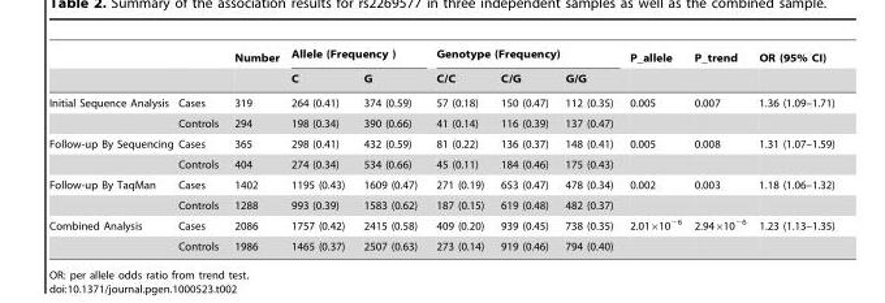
<table><thead><tr><td rowspan="2"></td><td rowspan="2"></td><td rowspan="2">Number</td><td colspan="2">Allele (Frequency )</td><td colspan="3">Genotype (Frequency)</td><td rowspan="2">P_allele</td><td rowspan="2">P_trend</td><td rowspan="2">OR (95% CI)</td></tr><tr><td>C</td><td>G</td><td>C/C</td><td>C/G</td><td>G/G</td></tr></thead><tbody><tr><td rowspan="2">Initial Sequence Analysis</td><td>Cases</td><td>319</td><td>264 (0.41)</td><td>374 (0.59)</td><td>57 (0.18)</td><td>150 (0.47)</td><td>112 (0.35)</td><td>0.005</td><td>0.007</td><td>1.36 (1.09–1.71)</td></tr><tr><td>Controls</td><td>294</td><td>198 (0.34)</td><td>390 (0.66)</td><td>41 (0.14)</td><td>116 (0.39)</td><td>137 (0.47)</td><td></td><td></td><td></td></tr><tr><td rowspan="2">Follow-up By Sequencing</td><td>Cases</td><td>365</td><td>298 (0.41)</td><td>432 (0.59)</td><td>81 (0.22)</td><td>136 (0.37)</td><td>148 (0.41)</td><td>0.005</td><td>0.008</td><td>1.31 (1.07–1.59)</td></tr><tr><td>Controls</td><td>404</td><td>274 (0.34)</td><td>534 (0.66)</td><td>45 (0.11)</td><td>184 (0.46)</td><td>175 (0.43)</td><td></td><td></td><td></td></tr><tr><td rowspan="2">Follow-up By TaqMan</td><td>Cases</td><td>1402</td><td>1195 (0.43)</td><td>1609 (0.47)</td><td>271 (0.19)</td><td>653 (0.47)</td><td>478 (0.34)</td><td>0.002</td><td>0.003</td><td>1.18 (1.06–1.32)</td></tr><tr><td>Controls</td><td>1288</td><td>993 (0.39)</td><td>1583 (0.62)</td><td>187 (0.15)</td><td>619 (0.48)</td><td>482 (0.37)</td><td></td><td></td><td></td></tr><tr><td rowspan="2">Combined Analysis</td><td>Cases</td><td>2086</td><td>1757 (0.42)</td><td>2415 (0.58)</td><td>409 (0.20)</td><td>939 (0.45)</td><td>738 (0.35)</td><td>2.01×10<sup>−6</sup></td><td>2.94×10<sup>−6</sup></td><td>1.23 (1.13–1.35)</td></tr><tr><td>Controls</td><td>1986</td><td>1465 (0.37)</td><td>2507 (0.63)</td><td>273 (0.14)</td><td>919 (0.46)</td><td>794 (0.40)</td><td></td><td></td><td></td></tr></tbody></table>